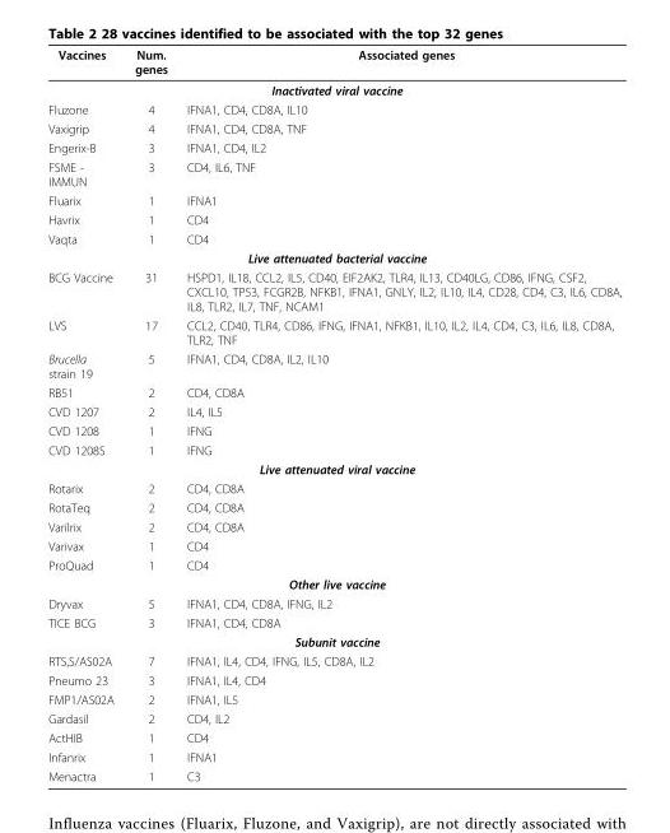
<table><thead><tr><td>Vaccines</td><td>Num. genes</td><td>Associated genes</td></tr></thead><tbody><tr><td colspan="3">Inactivated viral vaccine</td></tr><tr><td>Fluzone</td><td>4</td><td>IFNA1, CD4, CD8A, IL10</td></tr><tr><td>Vaxigrip</td><td>4</td><td>IFNA1, CD4, CD8A, TNF</td></tr><tr><td>Engerix-B</td><td>3</td><td>IFNA1, CD4, IL2</td></tr><tr><td>FSME - IMMUN</td><td>3</td><td>CD4, IL6, TNF</td></tr><tr><td>Fluarix</td><td>1</td><td>IFNA1</td></tr><tr><td>Havrix</td><td>1</td><td>CD4</td></tr><tr><td>Vaqta</td><td>1</td><td>CD4</td></tr><tr><td colspan="3">Live attenuated bacterial vaccine</td></tr><tr><td>BCG Vaccine</td><td>31</td><td>HSPD1, IL18, CCL2, IL5, CD40, EIF2AK2, TLR4, IL13, CD40LG, CD86, IFNG, CSF2, CXCL10, TP53, FCGR2B, NFKB1, IFNA1, GNLY, IL2, IL10, IL4, CD28, CD4, C3, IL6, CD8A, IL8, TLR2, IL7, TNF, NCAM1</td></tr><tr><td>LVS</td><td>17</td><td>CCL2, CD40, TLR4, CD86, IFNG, IFNA1, NFKB1, IL10, IL2, IL4, CD4, C3, IL6, IL8, CD8A, TLR2, TNF</td></tr><tr><td>Brucella strain 19</td><td>5</td><td>IFNA1, CD4, CD8A, IL2, IL10</td></tr><tr><td>RB51</td><td>2</td><td>CD4, CD8A</td></tr><tr><td>CVD 1207</td><td>2</td><td>IL4, IL5</td></tr><tr><td>CVD 1208</td><td>1</td><td>IFNG</td></tr><tr><td>CVD 1208S</td><td>1</td><td>IFNG</td></tr><tr><td colspan="3">Live attenuated viral vaccine</td></tr><tr><td>Rotarix</td><td>2</td><td>CD4, CD8A</td></tr><tr><td>RotaTeq</td><td>2</td><td>CD4, CD8A</td></tr><tr><td>Varilrix</td><td>2</td><td>CD4, CD8A</td></tr><tr><td>Varivax</td><td>1</td><td>CD4</td></tr><tr><td>ProQuad</td><td>1</td><td>CD4</td></tr><tr><td colspan="3">Other live vaccine</td></tr><tr><td>Dryvax</td><td>5</td><td>IFNA1, CD4, CD8A, IFNG, IL2</td></tr><tr><td>TICE BCG</td><td>3</td><td>IFNA1, CD4, CD8A</td></tr><tr><td colspan="3">Subunit vaccine</td></tr><tr><td>RTS,S/AS02A</td><td>7</td><td>IFNA1, IL4, CD4, IFNG, IL5, CD8A, IL2</td></tr><tr><td>Pneumo 23</td><td>3</td><td>IFNA1, IL4, CD4</td></tr><tr><td>FMP1/AS02A</td><td>2</td><td>IFNA1, IL5</td></tr><tr><td>Gardasil</td><td>2</td><td>CD4, IL2</td></tr><tr><td>ActHIB</td><td>1</td><td>CD4</td></tr><tr><td>Infanrix</td><td>1</td><td>IFNA1</td></tr><tr><td>Menactra</td><td>1</td><td>C3</td></tr></tbody></table>